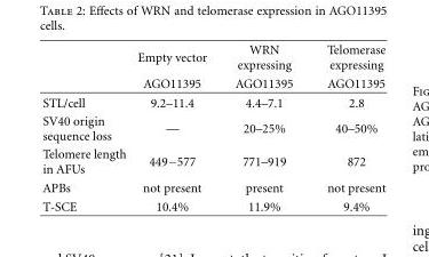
<table><thead><tr><td rowspan="2"></td><td rowspan="2">Empty vector AGO11395</td><td rowspan="2">WRN expressing AGO11395</td><td rowspan="2">Telomerase expressing AGO11395</td></tr><tr></tr></thead><tbody><tr><td>STL/cell</td><td>9.2–11.4</td><td>4.4–7.1</td><td>2.8</td></tr><tr><td>SV40 origin sequence loss</td><td>—</td><td>20–25%</td><td>40–50%</td></tr><tr><td>Telomere length in AFUs</td><td>449−577</td><td>771–919</td><td>872</td></tr><tr><td>APBs</td><td>not present</td><td>present</td><td>not present</td></tr><tr><td>T-SCE</td><td>10.4%</td><td>11.9%</td><td>9.4%</td></tr></tbody></table>